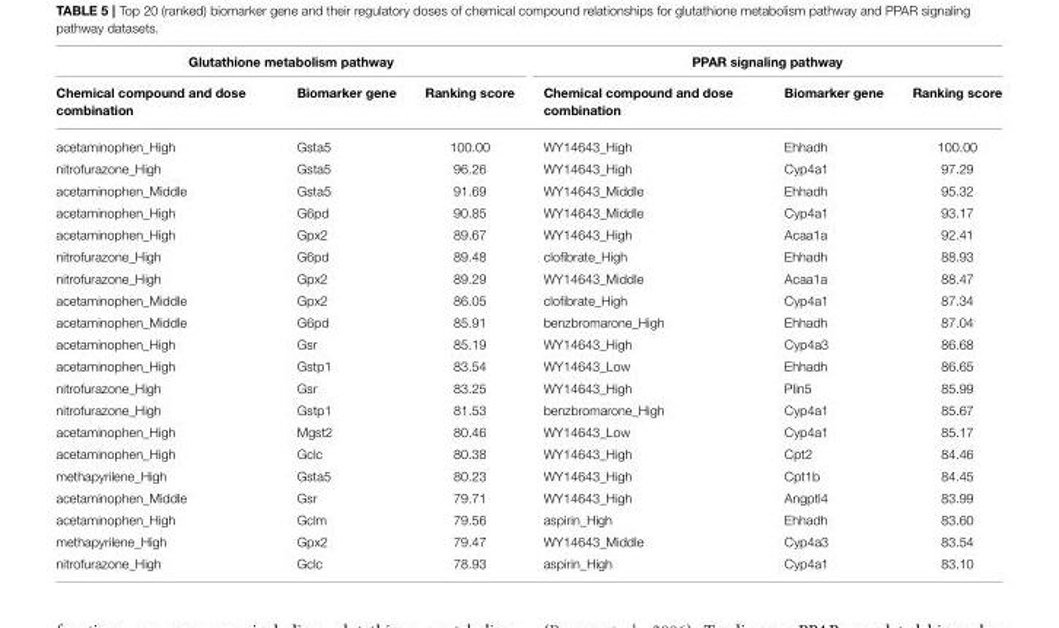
<table><thead><tr><td colspan="3">Glutathione metabolism pathway</td><td colspan="3">PPAR signaling pathway</td></tr><tr><td>Chemical compound and dose combination</td><td>Biomarker gene</td><td>Ranking score</td><td>Chemical compound and dose combination</td><td>Biomarker gene</td><td>Ranking score</td></tr></thead><tbody><tr><td>acetaminophen_High</td><td>Gsta5</td><td>100.00</td><td>WY14643_High</td><td>Ehhadh</td><td>100.00</td></tr><tr><td>nitrofurazone_High</td><td>Gsta5</td><td>96.26</td><td>WY14643_High</td><td>Cyp4a1</td><td>97.29</td></tr><tr><td>acetaminophen_Middle</td><td>Gsta5</td><td>91.69</td><td>WY14643_Middle</td><td>Ehhadh</td><td>95.32</td></tr><tr><td>acetaminophen_High</td><td>G6pd</td><td>90.85</td><td>WY14643_Middle</td><td>Cyp4a1</td><td>93.17</td></tr><tr><td>acetaminophen_High</td><td>Gpx2</td><td>89.67</td><td>WY14643_High</td><td>Acaa1a</td><td>92.41</td></tr><tr><td>nitrofurazone_High</td><td>G6pd</td><td>89.48</td><td>clofibrate_High</td><td>Ehhadh</td><td>88.93</td></tr><tr><td>nitrofurazone_High</td><td>Gpx2</td><td>89.29</td><td>WY14643_Middle</td><td>Acaa1a</td><td>88.47</td></tr><tr><td>acetaminophen_Middle</td><td>Gpx2</td><td>86.05</td><td>clofibrate_High</td><td>Cyp4a1</td><td>87.34</td></tr><tr><td>acetaminophen_Middle</td><td>G6pd</td><td>85.91</td><td>benzbromarone_High</td><td>Ehhadh</td><td>87.04</td></tr><tr><td>acetaminophen_High</td><td>Gsr</td><td>85.19</td><td>WY14643_High</td><td>Cyp4a3</td><td>86.68</td></tr><tr><td>acetaminophen_High</td><td>Gstp1</td><td>83.54</td><td>WY14643_Low</td><td>Ehhadh</td><td>86.65</td></tr><tr><td>nitrofurazone_High</td><td>Gsr</td><td>83.25</td><td>WY14643_High</td><td>Plin5</td><td>85.99</td></tr><tr><td>nitrofurazone_High</td><td>Gstp1</td><td>81.53</td><td>benzbromarone_High</td><td>Cyp4a1</td><td>85.67</td></tr><tr><td>acetaminophen_High</td><td>Mgst2</td><td>80.46</td><td>WY14643_Low</td><td>Cyp4a1</td><td>85.17</td></tr><tr><td>acetaminophen_High</td><td>Gclc</td><td>80.38</td><td>WY14643_High</td><td>Cpt2</td><td>84.46</td></tr><tr><td>methapyrilene_High</td><td>Gsta5</td><td>80.23</td><td>WY14643_High</td><td>Cpt1b</td><td>84.45</td></tr><tr><td>acetaminophen_Middle</td><td>Gsr</td><td>79.71</td><td>WY14643_High</td><td>Angptl4</td><td>83.99</td></tr><tr><td>acetaminophen_High</td><td>Gclm</td><td>79.56</td><td>aspirin_High</td><td>Ehhadh</td><td>83.60</td></tr><tr><td>methapyrilene_High</td><td>Gpx2</td><td>79.47</td><td>WY14643_Middle</td><td>Cyp4a3</td><td>83.54</td></tr><tr><td>nitrofurazone_High</td><td>Gclc</td><td>78.93</td><td>aspirin_High</td><td>Cyp4a1</td><td>83.10</td></tr></tbody></table>